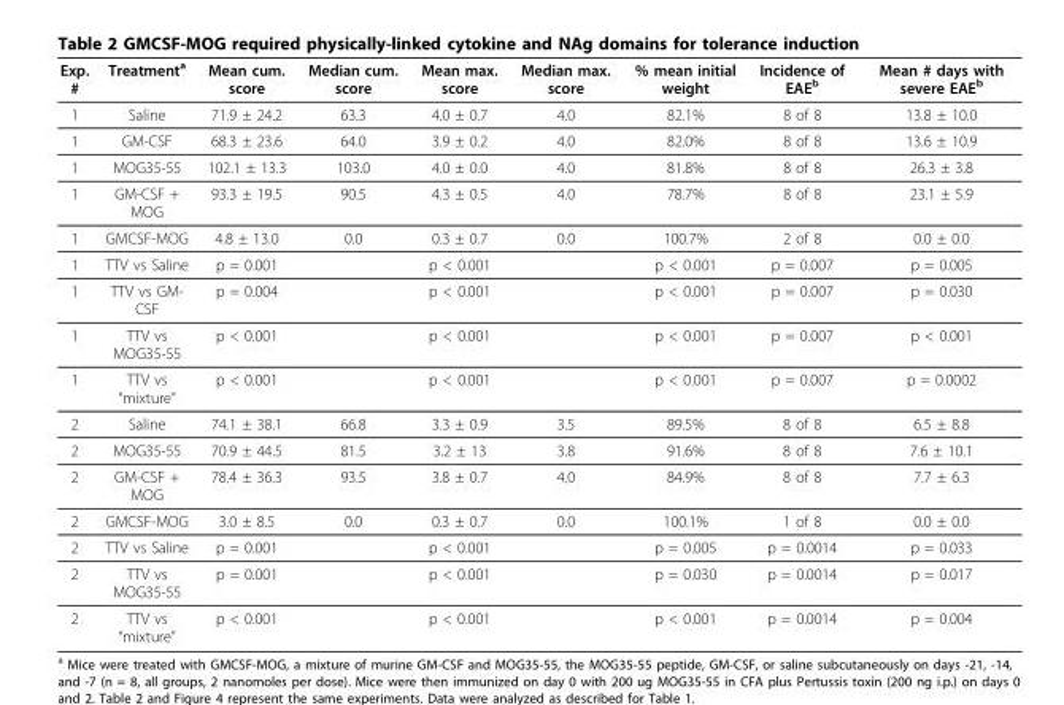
<table><thead><tr><td>Exp. #</td><td>Treatment<sup>a</sup></td><td>Mean cum. score</td><td>Median cum. score</td><td>Mean max. score</td><td>Median max. score</td><td>% mean initial weight</td><td>Incidence of EAE<sup>b</sup></td><td>Mean # days with severe EAE<sup>b</sup></td></tr></thead><tbody><tr><td>1</td><td>Saline</td><td>71.9 ± 24.2</td><td>63.3</td><td>4.0 ± 0.7</td><td>4.0</td><td>82.1%</td><td>8 of 8</td><td>13.8 ± 10.0</td></tr><tr><td>1</td><td>GM-CSF</td><td>68.3 ± 23.6</td><td>64.0</td><td>3.9 ± 0.2</td><td>4.0</td><td>82.0%</td><td>8 of 8</td><td>13.6 ± 10.9</td></tr><tr><td>1</td><td>MOG35-55</td><td>102.1 ± 13.3</td><td>103.0</td><td>4.0 ± 0.0</td><td>4.0</td><td>81.8%</td><td>8 of 8</td><td>26.3 ± 3.8</td></tr><tr><td>1</td><td>GM-CSF + MOG</td><td>93.3 ± 19.5</td><td>90.5</td><td>4.3 ± 0.5</td><td>4.0</td><td>78.7%</td><td>8 of 8</td><td>23.1 ± 5.9</td></tr><tr><td>1</td><td>GMCSF-MOG</td><td>4.8 ± 13.0</td><td>0.0</td><td>0.3 ± 0.7</td><td>0.0</td><td>100.7%</td><td>2 of 8</td><td>0.0 ± 0.0</td></tr><tr><td>1</td><td>TTV vs Saline</td><td>p = 0.001</td><td></td><td>p &lt; 0.001</td><td></td><td>p &lt; 0.001</td><td>p = 0.007</td><td>p = 0.005</td></tr><tr><td>1</td><td>TTV vs GM- CSF</td><td>p = 0.004</td><td></td><td>p &lt; 0.001</td><td></td><td>p &lt; 0.001</td><td>p = 0.007</td><td>p = 0.030</td></tr><tr><td>1</td><td>TTV vs MOG35-55</td><td>p &lt; 0.001</td><td></td><td>p &lt; 0.001</td><td></td><td>p &lt; 0.001</td><td>p = 0.007</td><td>p &lt; 0.001</td></tr><tr><td>1</td><td>TTV vs “mixture”</td><td>p &lt; 0.001</td><td></td><td>p &lt; 0.001</td><td></td><td>p &lt; 0.001</td><td>p = 0.007</td><td>p = 0.0002</td></tr><tr><td>2</td><td>Saline</td><td>74.1 ± 38.1</td><td>66.8</td><td>3.3 ± 0.9</td><td>3.5</td><td>89.5%</td><td>8 of 8</td><td>6.5 ± 8.8</td></tr><tr><td>2</td><td>MOG35-55</td><td>70.9 ± 44.5</td><td>81.5</td><td>3.2 ± 13</td><td>3.8</td><td>91.6%</td><td>8 of 8</td><td>7.6 ± 10.1</td></tr><tr><td>2</td><td>GM-CSF + MOG</td><td>78.4 ± 36.3</td><td>93.5</td><td>3.8 ± 0.7</td><td>4.0</td><td>84.9%</td><td>8 of 8</td><td>7.7 ± 6.3</td></tr><tr><td>2</td><td>GMCSF-MOG</td><td>3.0 ± 8.5</td><td>0.0</td><td>0.3 ± 0.7</td><td>0.0</td><td>100.1%</td><td>1 of 8</td><td>0.0 ± 0.0</td></tr><tr><td>2</td><td>TTV vs Saline</td><td>p = 0.001</td><td></td><td>p &lt; 0.001</td><td></td><td>p = 0.005</td><td>p = 0.0014</td><td>p = 0.033</td></tr><tr><td>2</td><td>TTV vs MOG35-55</td><td>p = 0.001</td><td></td><td>p &lt; 0.001</td><td></td><td>p = 0.030</td><td>p = 0.0014</td><td>p = 0.017</td></tr><tr><td>2</td><td>TTV vs “mixture”</td><td>p &lt; 0.001</td><td></td><td>p &lt; 0.001</td><td></td><td>p &lt; 0.001</td><td>p = 0.0014</td><td>p = 0.004</td></tr></tbody></table>